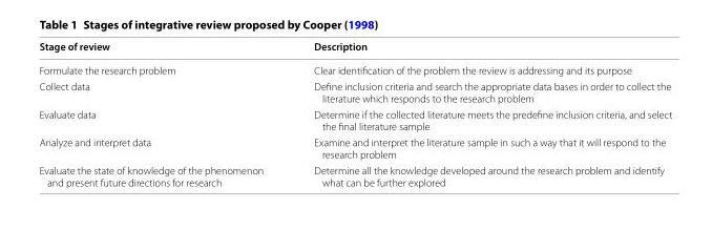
<table><thead><tr><td>Stage of review</td><td>Description</td></tr></thead><tbody><tr><td>Formulate the research problem</td><td>Clear identification of the problem the review is addressing and its purpose</td></tr><tr><td>Collect data</td><td>Define inclusion criteria and search the appropriate data bases in order to collect the literature which responds to the research problem</td></tr><tr><td>Evaluate data</td><td>Determine if the collected literature meets the predefine inclusion criteria, and select the final literature sample</td></tr><tr><td>Analyze and interpret data</td><td>Examine and interpret the literature sample in such a way that it will respond to the research problem</td></tr><tr><td>Evaluate the state of knowledge of the phenomenon and present future directions for research</td><td>Determine all the knowledge developed around the research problem and identify what can be further explored</td></tr></tbody></table>